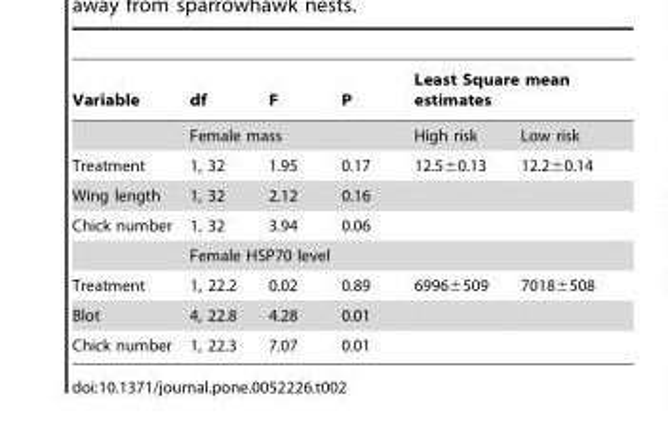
<table><thead><tr><td rowspan="2">Variable</td><td>df</td><td>F</td><td>P</td><td colspan="2">Least Square mean estimates</td></tr><tr><td colspan="3">Female mass</td><td>High risk</td><td>Low risk</td></tr></thead><tbody><tr><td>Treatment</td><td>1, 32</td><td>1.95</td><td>0.17</td><td>12.5±0.13</td><td>12.2±0.14</td></tr><tr><td>Wing length</td><td>1, 32</td><td>2.12</td><td>0.16</td><td></td><td></td></tr><tr><td rowspan="2">Chick number</td><td>1, 32</td><td>3.94</td><td>0.06</td><td></td><td></td></tr><tr><td colspan="3">Female HSP70 level</td><td></td><td></td></tr><tr><td>Treatment</td><td>1, 22.2</td><td>0.02</td><td>0.89</td><td>6996±509</td><td>7018±508</td></tr><tr><td>Blot</td><td>4, 22.8</td><td>4.28</td><td>0.01</td><td></td><td></td></tr><tr><td>Chick number</td><td>1, 22.3</td><td>7.07</td><td>0.01</td><td></td><td></td></tr></tbody></table>